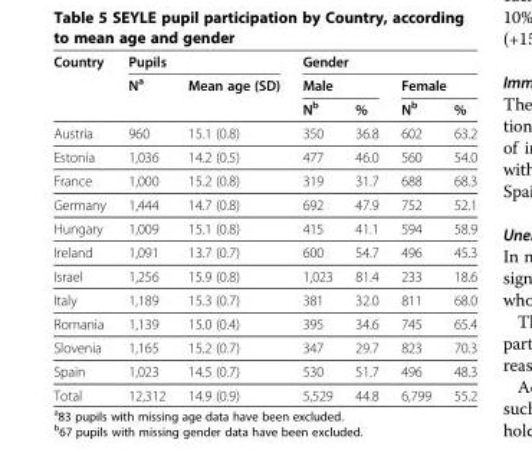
<table><thead><tr><td rowspan="3">Country</td><td colspan="2">Pupils</td><td colspan="4">Gender</td></tr><tr><td rowspan="2">N<sup>a</sup></td><td rowspan="2">Mean age (SD)</td><td colspan="2">Male</td><td colspan="2">Female</td></tr><tr><td>N<sup>b</sup></td><td>%</td><td>N<sup>b</sup></td><td>%</td></tr></thead><tbody><tr><td>Austria</td><td>960</td><td>15.1 (0.8)</td><td>350</td><td>36.8</td><td>602</td><td>63.2</td></tr><tr><td>Estonia</td><td>1,036</td><td>14.2 (0.5)</td><td>477</td><td>46.0</td><td>560</td><td>54.0</td></tr><tr><td>France</td><td>1,000</td><td>15.2 (0.8)</td><td>319</td><td>31.7</td><td>688</td><td>68.3</td></tr><tr><td>Germany</td><td>1,444</td><td>14.7 (0.8)</td><td>692</td><td>47.9</td><td>752</td><td>52.1</td></tr><tr><td>Hungary</td><td>1,009</td><td>15.1 (0.8)</td><td>415</td><td>41.1</td><td>594</td><td>58.9</td></tr><tr><td>Ireland</td><td>1,091</td><td>13.7 (0.7)</td><td>600</td><td>54.7</td><td>496</td><td>45.3</td></tr><tr><td>Israel</td><td>1,256</td><td>15.9 (0.8)</td><td>1,023</td><td>81.4</td><td>233</td><td>18.6</td></tr><tr><td>Italy</td><td>1,189</td><td>15.3 (0.7)</td><td>381</td><td>32.0</td><td>811</td><td>68.0</td></tr><tr><td>Romania</td><td>1,139</td><td>15.0 (0.4)</td><td>395</td><td>34.6</td><td>745</td><td>65.4</td></tr><tr><td>Slovenia</td><td>1,165</td><td>15.2 (0.7)</td><td>347</td><td>29.7</td><td>823</td><td>70.3</td></tr><tr><td>Spain</td><td>1,023</td><td>14.5 (0.7)</td><td>530</td><td>51.7</td><td>496</td><td>48.3</td></tr><tr><td>Total</td><td>12,312</td><td>14.9 (0.9)</td><td>5,529</td><td>44.8</td><td>6,799</td><td>55.2</td></tr></tbody></table>